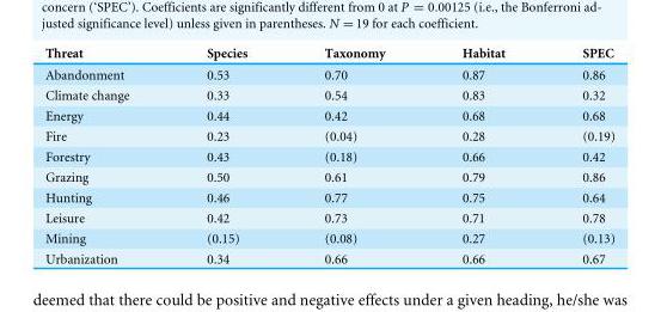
<table><thead><tr><td>Threat</td><td>Species</td><td>Taxonomy</td><td>Habitat</td><td>SPEC</td></tr></thead><tbody><tr><td>Abandonment</td><td>0.53</td><td>0.70</td><td>0.87</td><td>0.86</td></tr><tr><td>Climate change</td><td>0.33</td><td>0.54</td><td>0.83</td><td>0.32</td></tr><tr><td>Energy</td><td>0.44</td><td>0.42</td><td>0.68</td><td>0.68</td></tr><tr><td>Fire</td><td>0.23</td><td>(0.04)</td><td>0.28</td><td>(0.19)</td></tr><tr><td>Forestry</td><td>0.43</td><td>(0.18)</td><td>0.66</td><td>0.42</td></tr><tr><td>Grazing</td><td>0.50</td><td>0.61</td><td>0.79</td><td>0.86</td></tr><tr><td>Hunting</td><td>0.46</td><td>0.77</td><td>0.75</td><td>0.64</td></tr><tr><td>Leisure</td><td>0.42</td><td>0.73</td><td>0.71</td><td>0.78</td></tr><tr><td>Mining</td><td>(0.15)</td><td>(0.08)</td><td>0.27</td><td>(0.13)</td></tr><tr><td>Urbanization</td><td>0.34</td><td>0.66</td><td>0.66</td><td>0.67</td></tr></tbody></table>